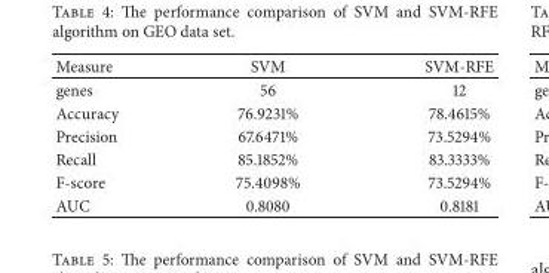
<table><thead><tr><td>Measure</td><td>SVM</td><td>SVM-RFE</td></tr></thead><tbody><tr><td>genes</td><td>56</td><td>12</td></tr><tr><td>Accuracy</td><td>76.9231%</td><td>78.4615%</td></tr><tr><td>Precision</td><td>67.6471%</td><td>73.5294%</td></tr><tr><td>Recall</td><td>85.1852%</td><td>83.3333%</td></tr><tr><td>F-score</td><td>75.4098%</td><td>73.5294%</td></tr><tr><td>AUC</td><td>0.8080</td><td>0.8181</td></tr></tbody></table>